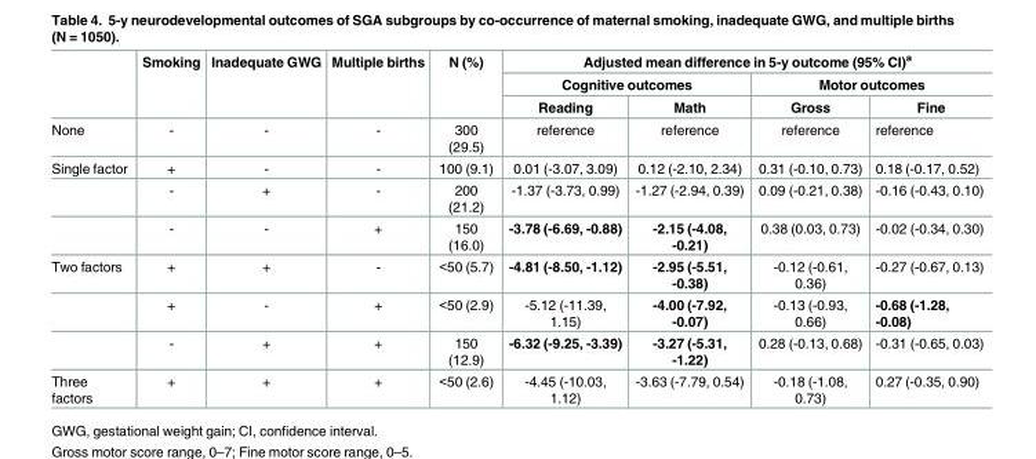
<table><thead><tr><td rowspan="3"></td><td rowspan="3">Smoking</td><td rowspan="3">Inadequate GWG</td><td rowspan="3">Multiple births</td><td rowspan="3">N (%)</td><td colspan="4">Adjusted mean difference in 5-y outcome (95% CI)<sup>a</sup></td></tr><tr><td colspan="2">Cognitive outcomes</td><td colspan="2">Motor outcomes</td></tr><tr><td>Reading</td><td>Math</td><td>Gross</td><td>Fine</td></tr></thead><tbody><tr><td>None</td><td>-</td><td>-</td><td>-</td><td>300 (29.5)</td><td>reference</td><td>reference</td><td>reference</td><td>reference</td></tr><tr><td rowspan="3">Single factor</td><td>+</td><td>-</td><td>-</td><td>100 (9.1)</td><td>0.01 (-3.07, 3.09)</td><td>0.12 (-2.10, 2.34)</td><td>0.31 (-0.10, 0.73)</td><td>0.18 (-0.17, 0.52)</td></tr><tr><td>-</td><td>+</td><td>-</td><td>200 (21.2)</td><td>-1.37 (-3.73, 0.99)</td><td>-1.27 (-2.94, 0.39)</td><td>0.09 (-0.21, 0.38)</td><td>-0.16 (-0.43, 0.10)</td></tr><tr><td>-</td><td>-</td><td>+</td><td>150 (16.0)</td><td>-3.78 (-6.69, -0.88)</td><td>-2.15 (-4.08, -0.21)</td><td>0.38 (0.03, 0.73)</td><td>-0.02 (-0.34, 0.30)</td></tr><tr><td rowspan="3">Two factors</td><td>+</td><td>+</td><td>-</td><td>&lt;50 (5.7)</td><td>-4.81 (-8.50, -1.12)</td><td>-2.95 (-5.51, -0.38)</td><td>-0.12 (-0.61, 0.36)</td><td>-0.27 (-0.67, 0.13)</td></tr><tr><td>+</td><td>-</td><td>+</td><td>&lt;50 (2.9)</td><td>-5.12 (-11.39, 1.15)</td><td>-4.00 (-7.92, -0.07)</td><td>-0.13 (-0.93, 0.66)</td><td>-0.68 (-1.28, -0.08)</td></tr><tr><td>-</td><td>+</td><td>+</td><td>150 (12.9)</td><td>-6.32 (-9.25, -3.39)</td><td>-3.27 (-5.31, -1.22)</td><td>0.28 (-0.13, 0.68)</td><td>-0.31 (-0.65, 0.03)</td></tr><tr><td>Three factors</td><td>+</td><td>+</td><td>+</td><td>&lt;50 (2.6)</td><td>-4.45 (-10.03, 1.12)</td><td>-3.63 (-7.79, 0.54)</td><td>-0.18 (-1.08, 0.73)</td><td>0.27 (-0.35, 0.90)</td></tr></tbody></table>